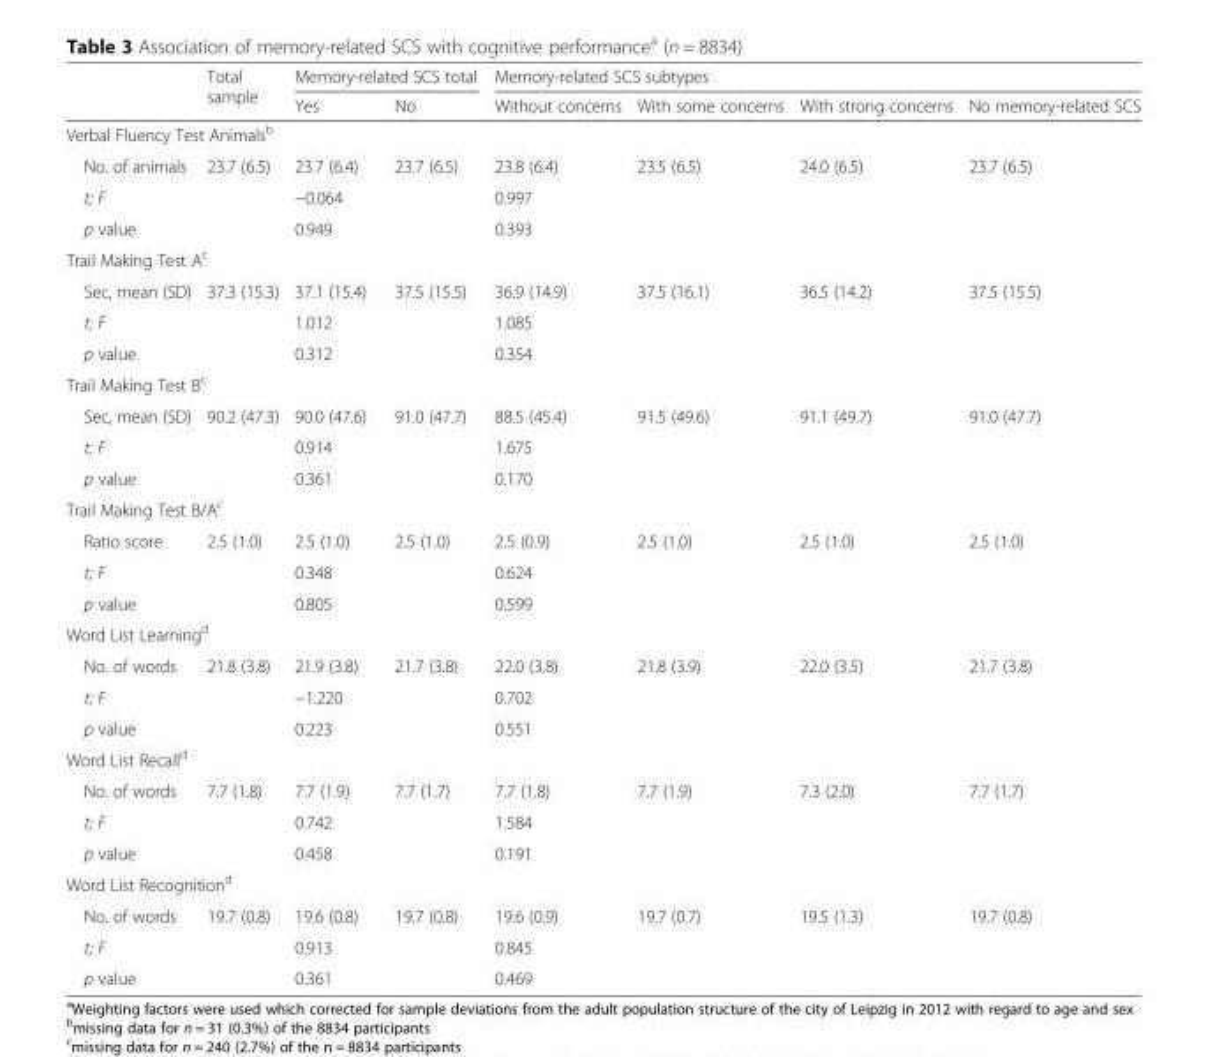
<table><thead><tr><td rowspan="2"></td><td rowspan="2">Total sample</td><td colspan="2">Memory-related SCS total</td><td colspan="4">Memory-related SCS subtypes</td></tr><tr><td>Yes</td><td>No</td><td>Without concerns</td><td>With some concerns</td><td>With strong concerns</td><td>No memory-related SCS</td></tr></thead><tbody><tr><td colspan="8">Verbal Fluency Test Animals<sup>b</sup></td></tr><tr><td>No. of animals</td><td>23.7 (6.5)</td><td>23.7 (6.4)</td><td>23.7 (6.5)</td><td>23.8 (6.4)</td><td>23.5 (6.5)</td><td>24.0 (6.5)</td><td>23.7 (6.5)</td></tr><tr><td>t; F</td><td></td><td colspan="2">−0.064</td><td colspan="4">0.997</td></tr><tr><td>p value</td><td></td><td colspan="2">0.949</td><td colspan="4">0.393</td></tr><tr><td colspan="8">Trail Making Test A<sup>c</sup></td></tr><tr><td>Sec, mean (SD)</td><td>37.3 (15.3)</td><td>37.1 (15.4)</td><td>37.5 (15.5)</td><td>36.9 (14.9)</td><td>37.5 (16.1)</td><td>36.5 (14.2)</td><td>37.5 (15.5)</td></tr><tr><td>t; F</td><td></td><td colspan="2">1.012</td><td colspan="4">1.085</td></tr><tr><td>p value</td><td></td><td colspan="2">0.312</td><td colspan="4">0.354</td></tr><tr><td colspan="8">Trail Making Test B<sup>c</sup></td></tr><tr><td>Sec, mean (SD)</td><td>90.2 (47.3)</td><td>90.0 (47.6)</td><td>91.0 (47.7)</td><td>88.5 (45.4)</td><td>91.5 (49.6)</td><td>91.1 (49.7)</td><td>91.0 (47.7)</td></tr><tr><td>t; F</td><td></td><td colspan="2">0.914</td><td colspan="4">1.675</td></tr><tr><td>p value</td><td></td><td colspan="2">0.361</td><td colspan="4">0.170</td></tr><tr><td colspan="8">Trail Making Test B/A<sup>c</sup></td></tr><tr><td>Ratio score</td><td>2.5 (1.0)</td><td>2.5 (1.0)</td><td>2.5 (1.0)</td><td>2.5 (0.9)</td><td>2.5 (1.0)</td><td>2.5 (1.0)</td><td>2.5 (1.0)</td></tr><tr><td>t; F</td><td></td><td colspan="2">0.348</td><td colspan="4">0.624</td></tr><tr><td>p value</td><td></td><td colspan="2">0.805</td><td colspan="4">0.599</td></tr><tr><td colspan="8">Word List Learning<sup>d</sup></td></tr><tr><td>No. of words</td><td>21.8 (3.8)</td><td>21.9 (3.8)</td><td>21.7 (3.8)</td><td>22.0 (3.8)</td><td>21.8 (3.9)</td><td>22.0 (3.5)</td><td>21.7 (3.8)</td></tr><tr><td>t; F</td><td></td><td colspan="2">−1.220</td><td colspan="4">0.702</td></tr><tr><td>p value</td><td></td><td colspan="2">0.223</td><td colspan="4">0.551</td></tr><tr><td colspan="8">Word List Recall<sup>d</sup></td></tr><tr><td>No. of words</td><td>7.7 (1.8)</td><td>7.7 (1.9)</td><td>7.7 (1.7)</td><td>7.7 (1.8)</td><td>7.7 (1.9)</td><td>7.3 (2.0)</td><td>7.7 (1.7)</td></tr><tr><td>t; F</td><td></td><td colspan="2">0.742</td><td colspan="4">1.584</td></tr><tr><td>p value</td><td></td><td colspan="2">0.458</td><td colspan="4">0.191</td></tr><tr><td colspan="8">Word List Recognition<sup>d</sup></td></tr><tr><td>No. of words</td><td>19.7 (0.8)</td><td>19.6 (0.8)</td><td>19.7 (0.8)</td><td>19.6 (0.9)</td><td>19.7 (0.7)</td><td>19.5 (1.3)</td><td>19.7 (0.8)</td></tr><tr><td>t; F</td><td></td><td colspan="2">0.913</td><td colspan="4">0.845</td></tr><tr><td>p value</td><td></td><td colspan="2">0.361</td><td colspan="4">0.469</td></tr></tbody></table>